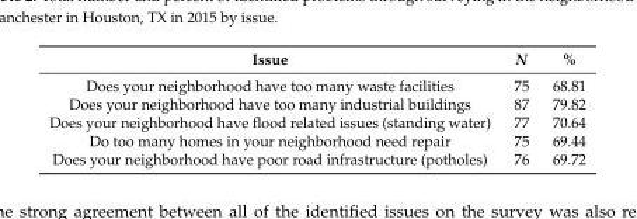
<table><thead><tr><td>Issue</td><td>N</td><td>%</td></tr></thead><tbody><tr><td>Does your neighborhood have too many waste facilities</td><td>75</td><td>68.81</td></tr><tr><td>Does your neighborhood have too many industrial buildings</td><td>87</td><td>79.82</td></tr><tr><td>Does your neighborhood have flood related issues (standing water)</td><td>77</td><td>70.64</td></tr><tr><td>Do too many homes in your neighborhood need repair</td><td>75</td><td>69.44</td></tr><tr><td>Does your neighborhood have poor road infrastructure (potholes)</td><td>76</td><td>69.72</td></tr></tbody></table>